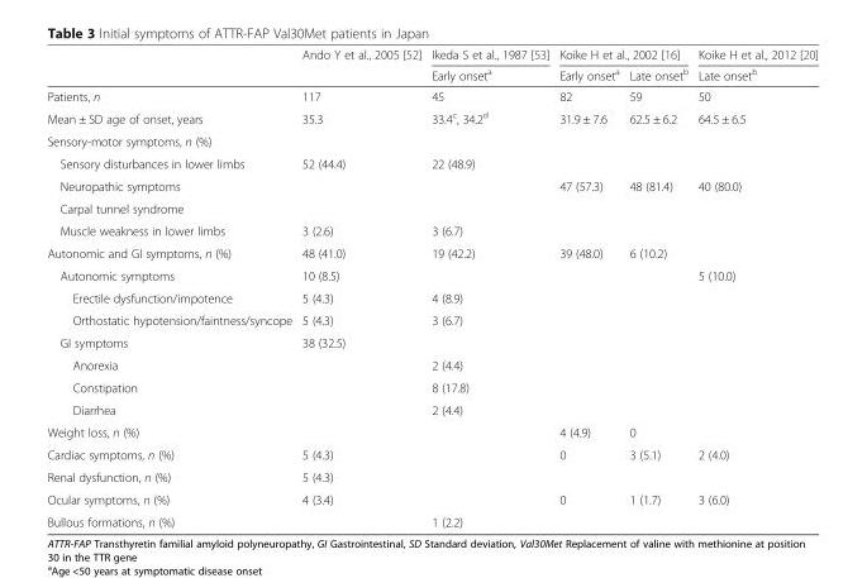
<table><thead><tr><td rowspan="2"></td><td rowspan="2">Ando Y et al., 2005 [52]</td><td rowspan="2">Ikeda S et al., 1987 [53] Early onset<sup>a</sup></td><td colspan="2">Koike H et al., 2002 [16]</td><td rowspan="2">Koike H et al., 2012 [20] Late onset<sup>b</sup></td></tr><tr><td>Early onset<sup>a</sup></td><td>Late onset<sup>b</sup></td></tr></thead><tbody><tr><td>Patients, n</td><td>117</td><td>45</td><td>82</td><td>59</td><td>50</td></tr><tr><td>Mean ± SD age of onset, years</td><td>35.3</td><td>33.4<sup>c</sup>, 34.2<sup>d</sup></td><td>31.9 ± 7.6</td><td>62.5 ± 6.2</td><td>64.5 ± 6.5</td></tr><tr><td colspan="6">Sensory-motor symptoms, n (%)</td></tr><tr><td>Sensory disturbances in lower limbs</td><td>52 (44.4)</td><td>22 (48.9)</td><td></td><td></td><td></td></tr><tr><td>Neuropathic symptoms</td><td></td><td></td><td>47 (57.3)</td><td>48 (81.4)</td><td>40 (80.0)</td></tr><tr><td colspan="6">Carpal tunnel syndrome</td></tr><tr><td>Muscle weakness in lower limbs</td><td>3 (2.6)</td><td>3 (6.7)</td><td></td><td></td><td></td></tr><tr><td>Autonomic and GI symptoms, n (%)</td><td>48 (41.0)</td><td>19 (42.2)</td><td>39 (48.0)</td><td>6 (10.2)</td><td></td></tr><tr><td>Autonomic symptoms</td><td>10 (8.5)</td><td></td><td></td><td></td><td>5 (10.0)</td></tr><tr><td>Erectile dysfunction/impotence</td><td>5 (4.3)</td><td>4 (8.9)</td><td></td><td></td><td></td></tr><tr><td>Orthostatic hypotension/faintness/syncope</td><td>5 (4.3)</td><td>3 (6.7)</td><td></td><td></td><td></td></tr><tr><td>GI symptoms</td><td>38 (32.5)</td><td></td><td></td><td></td><td></td></tr><tr><td>Anorexia</td><td></td><td>2 (4.4)</td><td></td><td></td><td></td></tr><tr><td>Constipation</td><td></td><td>8 (17.8)</td><td></td><td></td><td></td></tr><tr><td>Diarrhea</td><td></td><td>2 (4.4)</td><td></td><td></td><td></td></tr><tr><td>Weight loss, n (%)</td><td></td><td></td><td>4 (4.9)</td><td>0</td><td></td></tr><tr><td>Cardiac symptoms, n (%)</td><td>5 (4.3)</td><td></td><td>0</td><td>3 (5.1)</td><td>2 (4.0)</td></tr><tr><td>Renal dysfunction, n (%)</td><td>5 (4.3)</td><td></td><td></td><td></td><td></td></tr><tr><td>Ocular symptoms, n (%)</td><td>4 (3.4)</td><td></td><td>0</td><td>1 (1.7)</td><td>3 (6.0)</td></tr><tr><td>Bullous formations, n (%)</td><td></td><td>1 (2.2)</td><td></td><td></td><td></td></tr></tbody></table>